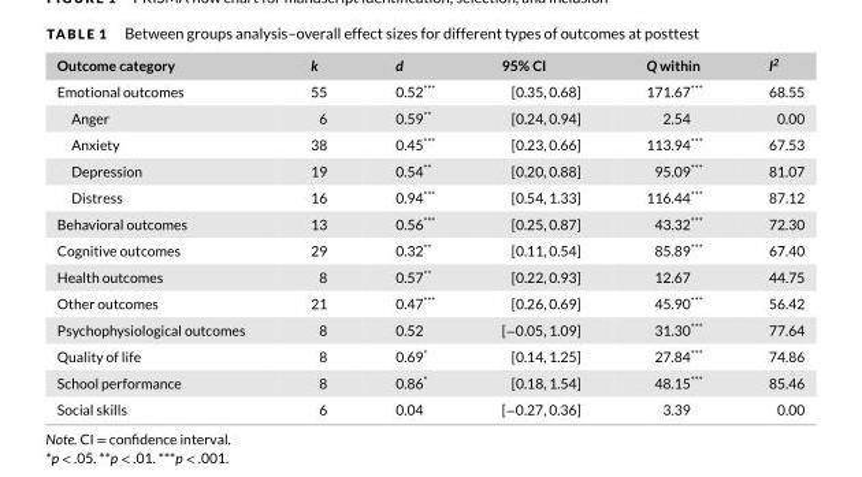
<table><thead><tr><td>Outcome category</td><td>k</td><td>d</td><td>95% CI</td><td>Q within</td><td>I<sup>2</sup></td></tr></thead><tbody><tr><td>Emotional outcomes</td><td>55</td><td>0.52***</td><td>[0.35, 0.68]</td><td>171.67***</td><td>68.55</td></tr><tr><td>Anger</td><td>6</td><td>0.59**</td><td>[0.24, 0.94]</td><td>2.54</td><td>0.00</td></tr><tr><td>Anxiety</td><td>38</td><td>0.45***</td><td>[0.23, 0.66]</td><td>113.94***</td><td>67.53</td></tr><tr><td>Depression</td><td>19</td><td>0.54**</td><td>[0.20, 0.88]</td><td>95.09***</td><td>81.07</td></tr><tr><td>Distress</td><td>16</td><td>0.94***</td><td>[0.54, 1.33]</td><td>116.44***</td><td>87.12</td></tr><tr><td>Behavioral outcomes</td><td>13</td><td>0.56***</td><td>[0.25, 0.87]</td><td>43.32***</td><td>72.30</td></tr><tr><td>Cognitive outcomes</td><td>29</td><td>0.32**</td><td>[0.11, 0.54]</td><td>85.89***</td><td>67.40</td></tr><tr><td>Health outcomes</td><td>8</td><td>0.57**</td><td>[0.22, 0.93]</td><td>12.67</td><td>44.75</td></tr><tr><td>Other outcomes</td><td>21</td><td>0.47***</td><td>[0.26, 0.69]</td><td>45.90***</td><td>56.42</td></tr><tr><td>Psychophysiological outcomes</td><td>8</td><td>0.52</td><td>[−0.05, 1.09]</td><td>31.30***</td><td>77.64</td></tr><tr><td>Quality of life</td><td>8</td><td>0.69*</td><td>[0.14, 1.25]</td><td>27.84***</td><td>74.86</td></tr><tr><td>School performance</td><td>8</td><td>0.86*</td><td>[0.18, 1.54]</td><td>48.15***</td><td>85.46</td></tr><tr><td>Social skills</td><td>6</td><td>0.04</td><td>[−0.27, 0.36]</td><td>3.39</td><td>0.00</td></tr></tbody></table>